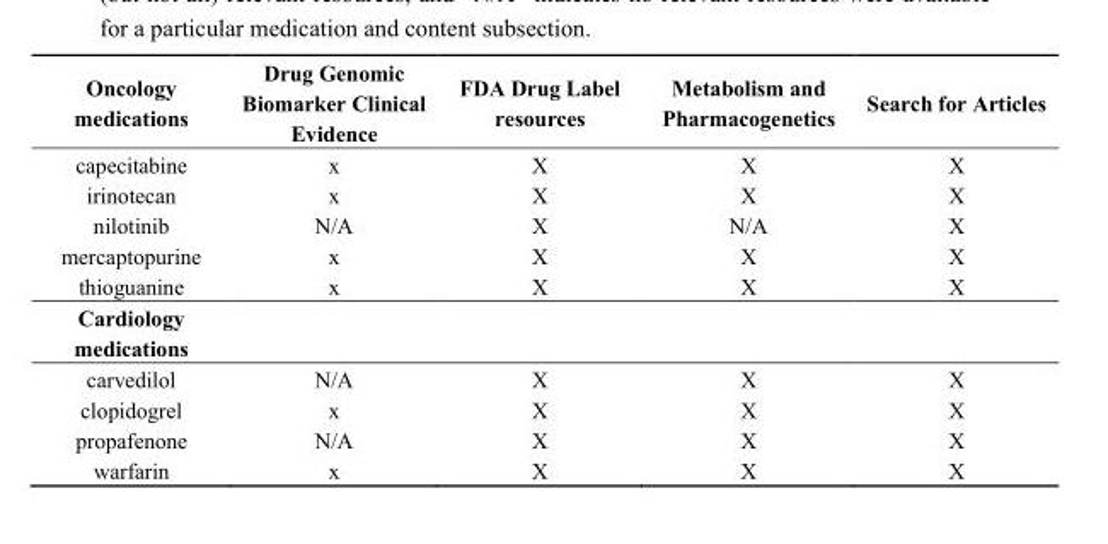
<table><thead><tr><td>Oncology medications</td><td>Drug Genomic Biomarker Clinical Evidence</td><td>FDA Drug Label resources</td><td>Metabolism and Pharmacogenetics</td><td>Search for Articles</td></tr></thead><tbody><tr><td>capecitabine</td><td>x</td><td>X</td><td>X</td><td>X</td></tr><tr><td>irinotecan</td><td>x</td><td>X</td><td>X</td><td>X</td></tr><tr><td>nilotinib</td><td>N/A</td><td>X</td><td>N/A</td><td>X</td></tr><tr><td>mercaptopurine</td><td>x</td><td>X</td><td>X</td><td>X</td></tr><tr><td>thioguanine</td><td>x</td><td>X</td><td>X</td><td>X</td></tr><tr><td colspan="5">Cardiology medications</td></tr><tr><td>carvedilol</td><td>N/A</td><td>X</td><td>X</td><td>X</td></tr><tr><td>clopidogrel</td><td>x</td><td>X</td><td>X</td><td>X</td></tr><tr><td>propafenone</td><td>N/A</td><td>X</td><td>X</td><td>X</td></tr><tr><td>warfarin</td><td>x</td><td>X</td><td>X</td><td>X</td></tr></tbody></table>